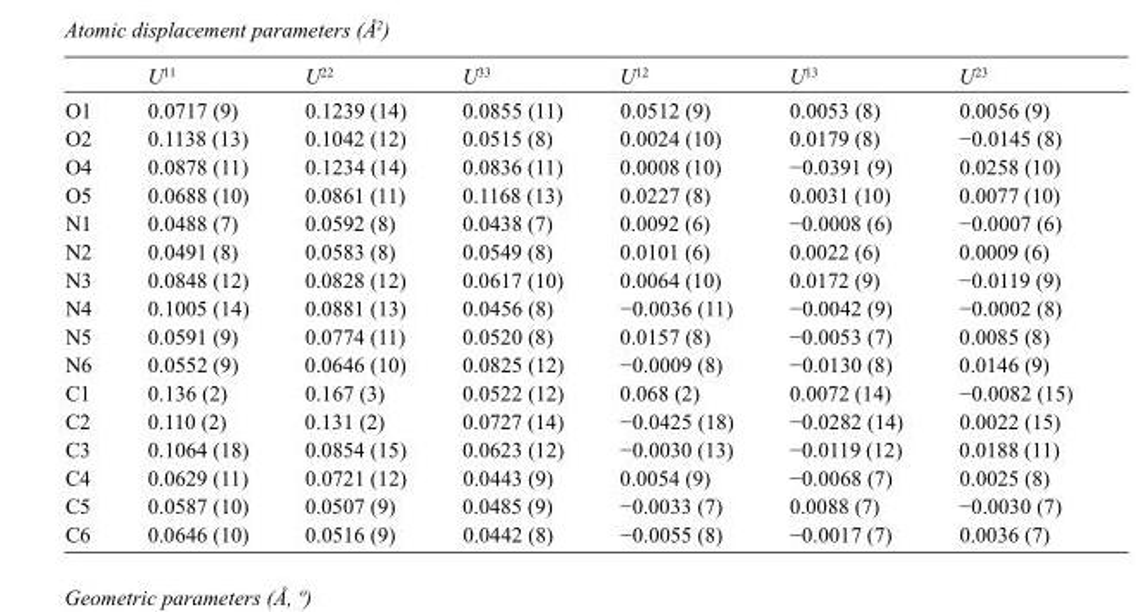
<table><thead><tr><td></td><td>U<sup>11</sup></td><td>U<sup>22</sup></td><td>U<sup>33</sup></td><td>U<sup>12</sup></td><td>U<sup>13</sup></td><td>U<sup>23</sup></td></tr></thead><tbody><tr><td>O1</td><td>0.0717 (9)</td><td>0.1239 (14)</td><td>0.0855 (11)</td><td>0.0512 (9)</td><td>0.0053 (8)</td><td>0.0056 (9)</td></tr><tr><td>O2</td><td>0.1138 (13)</td><td>0.1042 (12)</td><td>0.0515 (8)</td><td>0.0024 (10)</td><td>0.0179 (8)</td><td>−0.0145 (8)</td></tr><tr><td>O4</td><td>0.0878 (11)</td><td>0.1234 (14)</td><td>0.0836 (11)</td><td>0.0008 (10)</td><td>−0.0391 (9)</td><td>0.0258 (10)</td></tr><tr><td>O5</td><td>0.0688 (10)</td><td>0.0861 (11)</td><td>0.1168 (13)</td><td>0.0227 (8)</td><td>0.0031 (10)</td><td>0.0077 (10)</td></tr><tr><td>N1</td><td>0.0488 (7)</td><td>0.0592 (8)</td><td>0.0438 (7)</td><td>0.0092 (6)</td><td>−0.0008 (6)</td><td>−0.0007 (6)</td></tr><tr><td>N2</td><td>0.0491 (8)</td><td>0.0583 (8)</td><td>0.0549 (8)</td><td>0.0101 (6)</td><td>0.0022 (6)</td><td>0.0009 (6)</td></tr><tr><td>N3</td><td>0.0848 (12)</td><td>0.0828 (12)</td><td>0.0617 (10)</td><td>0.0064 (10)</td><td>0.0172 (9)</td><td>−0.0119 (9)</td></tr><tr><td>N4</td><td>0.1005 (14)</td><td>0.0881 (13)</td><td>0.0456 (8)</td><td>−0.0036 (11)</td><td>−0.0042 (9)</td><td>−0.0002 (8)</td></tr><tr><td>N5</td><td>0.0591 (9)</td><td>0.0774 (11)</td><td>0.0520 (8)</td><td>0.0157 (8)</td><td>−0.0053 (7)</td><td>0.0085 (8)</td></tr><tr><td>N6</td><td>0.0552 (9)</td><td>0.0646 (10)</td><td>0.0825 (12)</td><td>−0.0009 (8)</td><td>−0.0130 (8)</td><td>0.0146 (9)</td></tr><tr><td>C1</td><td>0.136 (2)</td><td>0.167 (3)</td><td>0.0522 (12)</td><td>0.068 (2)</td><td>0.0072 (14)</td><td>−0.0082 (15)</td></tr><tr><td>C2</td><td>0.110 (2)</td><td>0.131 (2)</td><td>0.0727 (14)</td><td>−0.0425 (18)</td><td>−0.0282 (14)</td><td>0.0022 (15)</td></tr><tr><td>C3</td><td>0.1064 (18)</td><td>0.0854 (15)</td><td>0.0623 (12)</td><td>−0.0030 (13)</td><td>−0.0119 (12)</td><td>0.0188 (11)</td></tr><tr><td>C4</td><td>0.0629 (11)</td><td>0.0721 (12)</td><td>0.0443 (9)</td><td>0.0054 (9)</td><td>−0.0068 (7)</td><td>0.0025 (8)</td></tr><tr><td>C5</td><td>0.0587 (10)</td><td>0.0507 (9)</td><td>0.0485 (9)</td><td>−0.0033 (7)</td><td>0.0088 (7)</td><td>−0.0030 (7)</td></tr><tr><td>C6</td><td>0.0646 (10)</td><td>0.0516 (9)</td><td>0.0442 (8)</td><td>−0.0055 (8)</td><td>−0.0017 (7)</td><td>0.0036 (7)</td></tr></tbody></table>